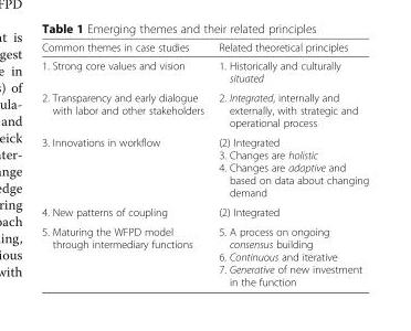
<table><thead><tr><td>Common themes in case studies</td><td>Related theoretical principles</td></tr></thead><tbody><tr><td>1. Strong core values and vision</td><td>1. Historically and culturally situated</td></tr><tr><td>2. Transparency and early dialogue with labor and other stakeholders</td><td>2. Integrated, internally and externally, with strategic and operational process</td></tr><tr><td>3. Innovations in workflow</td><td>(2) Integrated 3. Changes are holistic 4. Changes are adaptive and based on data about changing demand</td></tr><tr><td>4. New patterns of coupling</td><td>(2) Integrated</td></tr><tr><td>5. Maturing the WFPD model through intermediary functions</td><td>5. A process on ongoing consensus building 6. Continuous and iterative 7. Generative of new investment in the function</td></tr></tbody></table>